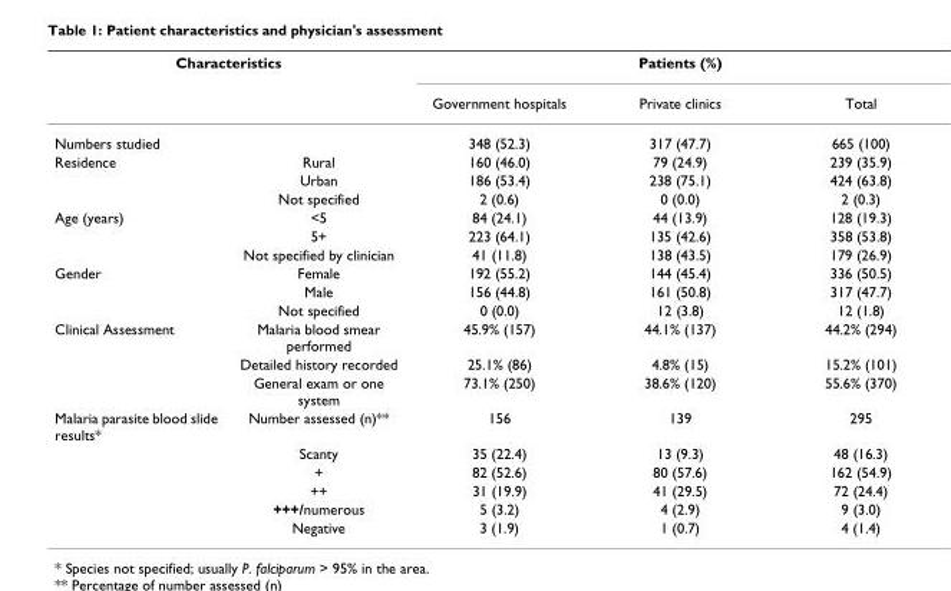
<table><thead><tr><td colspan="2">Characteristics</td><td colspan="3">Patients (%)</td></tr><tr><td></td><td></td><td>Government hospitals</td><td>Private clinics</td><td>Total</td></tr></thead><tbody><tr><td colspan="2">Numbers studied</td><td>348 (52.3)</td><td>317 (47.7)</td><td>665 (100)</td></tr><tr><td rowspan="3">Residence</td><td>Rural</td><td>160 (46.0)</td><td>79 (24.9)</td><td>239 (35.9)</td></tr><tr><td>Urban</td><td>186 (53.4)</td><td>238 (75.1)</td><td>424 (63.8)</td></tr><tr><td>Not specified</td><td>2 (0.6)</td><td>0 (0.0)</td><td>2 (0.3)</td></tr><tr><td rowspan="3">Age (years)</td><td>&lt;5</td><td>84 (24.1)</td><td>44 (13.9)</td><td>128 (19.3)</td></tr><tr><td>5+</td><td>223 (64.1)</td><td>135 (42.6)</td><td>358 (53.8)</td></tr><tr><td>Not specified by clinician</td><td>41 (11.8)</td><td>138 (43.5)</td><td>179 (26.9)</td></tr><tr><td rowspan="3">Gender</td><td>Female</td><td>192 (55.2)</td><td>144 (45.4)</td><td>336 (50.5)</td></tr><tr><td>Male</td><td>156 (44.8)</td><td>161 (50.8)</td><td>317 (47.7)</td></tr><tr><td>Not specified</td><td>0 (0.0)</td><td>12 (3.8)</td><td>12 (1.8)</td></tr><tr><td rowspan="3">Clinical Assessment</td><td>Malaria blood smear performed</td><td>45.9% (157)</td><td>44.1% (137)</td><td>44.2% (294)</td></tr><tr><td>Detailed history recorded</td><td>25.1% (86)</td><td>4.8% (15)</td><td>15.2% (101)</td></tr><tr><td>General exam or one system</td><td>73.1% (250)</td><td>38.6% (120)</td><td>55.6% (370)</td></tr><tr><td rowspan="6">Malaria parasite blood slide results*</td><td>Number assessed (n)**</td><td>156</td><td>139</td><td>295</td></tr><tr><td>Scanty</td><td>35 (22.4)</td><td>13 (9.3)</td><td>48 (16.3)</td></tr><tr><td>+</td><td>82 (52.6)</td><td>80 (57.6)</td><td>162 (54.9)</td></tr><tr><td>++</td><td>31 (19.9)</td><td>41 (29.5)</td><td>72 (24.4)</td></tr><tr><td>+++/numerous</td><td>5 (3.2)</td><td>4 (2.9)</td><td>9 (3.0)</td></tr><tr><td>Negative</td><td>3 (1.9)</td><td>1 (0.7)</td><td>4 (1.4)</td></tr></tbody></table>